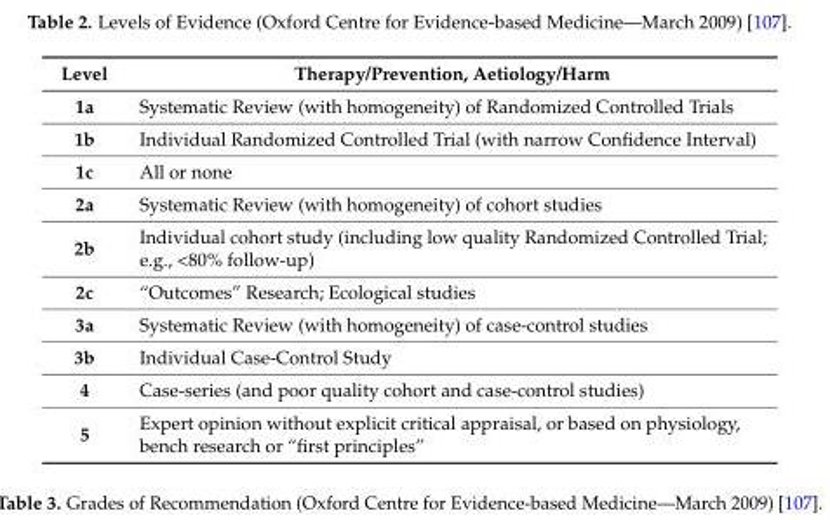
<table><thead><tr><td>Level</td><td>Therapy/Prevention, Aetiology/Harm</td></tr></thead><tbody><tr><td>1a</td><td>Systematic Review (with homogeneity) of Randomized Controlled Trials</td></tr><tr><td>1b</td><td>Individual Randomized Controlled Trial (with narrow Confidence Interval)</td></tr><tr><td>1c</td><td>All or none</td></tr><tr><td>2a</td><td>Systematic Review (with homogeneity) of cohort studies</td></tr><tr><td>2b</td><td>Individual cohort study (including low quality Randomized Controlled Trial; e.g., &lt;80% follow-up)</td></tr><tr><td>2c</td><td>“Outcomes” Research; Ecological studies</td></tr><tr><td>3a</td><td>Systematic Review (with homogeneity) of case-control studies</td></tr><tr><td>3b</td><td>Individual Case-Control Study</td></tr><tr><td>4</td><td>Case-series (and poor quality cohort and case-control studies)</td></tr><tr><td>5</td><td>Expert opinion without explicit critical appraisal, or based on physiology, bench research or “first principles”</td></tr></tbody></table>